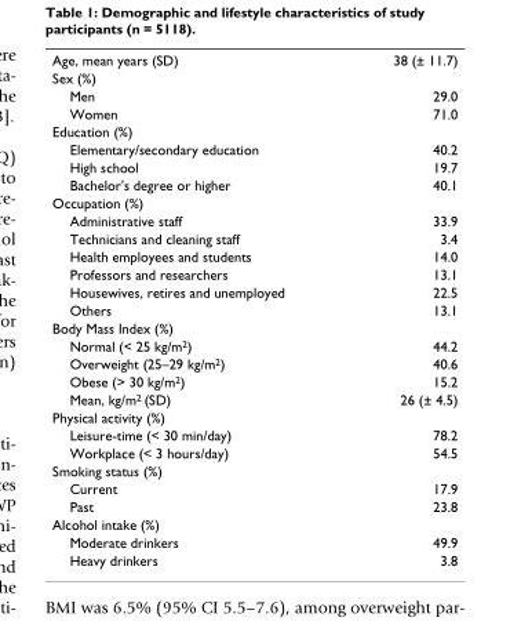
<table><tbody><tr><td>Age, mean years (SD)</td><td>38 (± 11.7)</td></tr><tr><td colspan="2">Sex (%)</td></tr><tr><td>Men</td><td>29.0</td></tr><tr><td>Women</td><td>71.0</td></tr><tr><td colspan="2">Education (%)</td></tr><tr><td>Elementary/secondary education</td><td>40.2</td></tr><tr><td>High school</td><td>19.7</td></tr><tr><td>Bachelor&#x27;s degree or higher</td><td>40.1</td></tr><tr><td colspan="2">Occupation (%)</td></tr><tr><td>Administrative staff</td><td>33.9</td></tr><tr><td>Technicians and cleaning staff</td><td>3.4</td></tr><tr><td>Health employees and students</td><td>14.0</td></tr><tr><td>Professors and researchers</td><td>13.1</td></tr><tr><td>Housewives, retires and unemployed</td><td>22.5</td></tr><tr><td>Others</td><td>13.1</td></tr><tr><td colspan="2">Body Mass Index (%)</td></tr><tr><td>Normal (&lt; 25 kg/m<sup>2</sup>)</td><td>44.2</td></tr><tr><td>Overweight (25–29 kg/m<sup>2</sup>)</td><td>40.6</td></tr><tr><td>Obese (&gt; 30 kg/m<sup>2</sup>)</td><td>15.2</td></tr><tr><td>Mean, kg/m<sup>2</sup> (SD)</td><td>26 (± 4.5)</td></tr><tr><td colspan="2">Physical activity (%)</td></tr><tr><td>Leisure-time (&lt; 30 min/day)</td><td>78.2</td></tr><tr><td>Workplace (&lt; 3 hours/day)</td><td>54.5</td></tr><tr><td colspan="2">Smoking status (%)</td></tr><tr><td>Current</td><td>17.9</td></tr><tr><td>Past</td><td>23.8</td></tr><tr><td colspan="2">Alcohol intake (%)</td></tr><tr><td>Moderate drinkers</td><td>49.9</td></tr><tr><td>Heavy drinkers</td><td>3.8</td></tr></tbody></table>